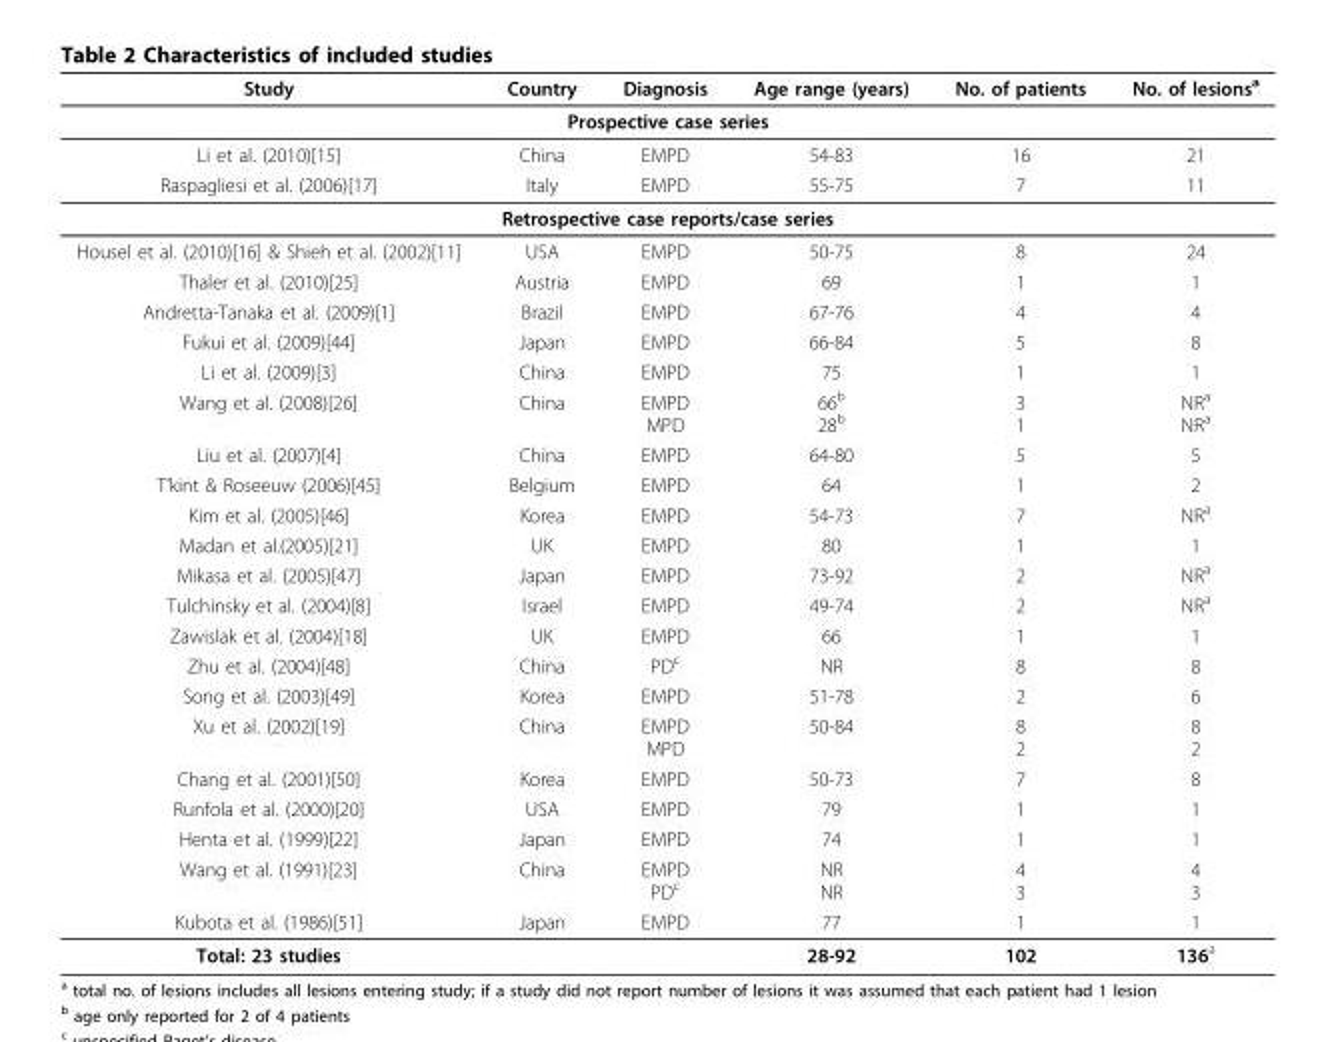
<table><thead><tr><td>Study</td><td>Country</td><td>Diagnosis</td><td>Age range (years)</td><td>No. of patients</td><td>No. of lesions<sup>a</sup></td></tr></thead><tbody><tr><td colspan="6">Prospective case series</td></tr><tr><td>Li et al. (2010)[15]</td><td>China</td><td>EMPD</td><td>54-83</td><td>16</td><td>21</td></tr><tr><td>Raspagliesi et al. (2006)[17]</td><td>Italy</td><td>EMPD</td><td>55-75</td><td>7</td><td>11</td></tr><tr><td colspan="6">Retrospective case reports/case series</td></tr><tr><td>Housel et al. (2010)[16] &amp; Shieh et al. (2002)[11]</td><td>USA</td><td>EMPD</td><td>50-75</td><td>8</td><td>24</td></tr><tr><td>Thaler et al. (2010)[25]</td><td>Austria</td><td>EMPD</td><td>69</td><td>1</td><td>1</td></tr><tr><td>Andretta-Tanaka et al. (2009)[1]</td><td>Brazil</td><td>EMPD</td><td>67-76</td><td>4</td><td>4</td></tr><tr><td>Fukui et al. (2009)[44]</td><td>Japan</td><td>EMPD</td><td>66-84</td><td>5</td><td>8</td></tr><tr><td>Li et al. (2009)[3]</td><td>China</td><td>EMPD</td><td>75</td><td>1</td><td>1</td></tr><tr><td>Wang et al. (2008)[26]</td><td>China</td><td>EMPD MPD</td><td>66<sup>b</sup> 28<sup>b</sup></td><td>3 1</td><td>NR<sup>a</sup> NR<sup>a</sup></td></tr><tr><td>Liu et al. (2007)[4]</td><td>China</td><td>EMPD</td><td>64-80</td><td>5</td><td>5</td></tr><tr><td>T’kint &amp; Roseeuw (2006)[45]</td><td>Belgium</td><td>EMPD</td><td>64</td><td>1</td><td>2</td></tr><tr><td>Kim et al. (2005)[46]</td><td>Korea</td><td>EMPD</td><td>54-73</td><td>7</td><td>NR<sup>a</sup></td></tr><tr><td>Madan et al.(2005)[21]</td><td>UK</td><td>EMPD</td><td>80</td><td>1</td><td>1</td></tr><tr><td>Mikasa et al. (2005)[47]</td><td>Japan</td><td>EMPD</td><td>73-92</td><td>2</td><td>NR<sup>a</sup></td></tr><tr><td>Tulchinsky et al. (2004)[8]</td><td>Israel</td><td>EMPD</td><td>49-74</td><td>2</td><td>NR<sup>a</sup></td></tr><tr><td>Zawislak et al. (2004)[18]</td><td>UK</td><td>EMPD</td><td>66</td><td>1</td><td>1</td></tr><tr><td>Zhu et al. (2004)[48]</td><td>China</td><td>PD<sup>c</sup></td><td>NR</td><td>8</td><td>8</td></tr><tr><td>Song et al. (2003)[49]</td><td>Korea</td><td>EMPD</td><td>51-78</td><td>2</td><td>6</td></tr><tr><td>Xu et al. (2002)[19]</td><td>China</td><td>EMPD MPD</td><td>50-84</td><td>8 2</td><td>8 2</td></tr><tr><td>Chang et al. (2001)[50]</td><td>Korea</td><td>EMPD</td><td>50-73</td><td>7</td><td>8</td></tr><tr><td>Runfola et al. (2000)[20]</td><td>USA</td><td>EMPD</td><td>79</td><td>1</td><td>1</td></tr><tr><td>Henta et al. (1999)[22]</td><td>Japan</td><td>EMPD</td><td>74</td><td>1</td><td>1</td></tr><tr><td>Wang et al. (1991)[23]</td><td>China</td><td>EMPD PD<sup>c</sup></td><td>NR NR</td><td>4 3</td><td>4 3</td></tr><tr><td>Kubota et al. (1986)[51]</td><td>Japan</td><td>EMPD</td><td>77</td><td>1</td><td>1</td></tr><tr><td>Total: 23 studies</td><td></td><td></td><td>28-92</td><td>102</td><td>136<sup>a</sup></td></tr></tbody></table>